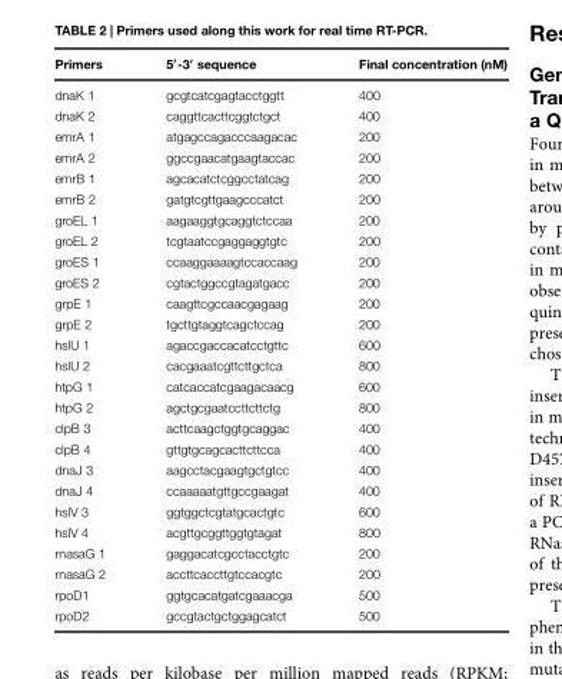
<table><thead><tr><td>Primers</td><td>5′-3′ sequence</td><td>Final concentration (nM)</td></tr></thead><tbody><tr><td>dnaK 1</td><td>gcgtcatcgagtacctggtt</td><td>400</td></tr><tr><td>dnaK 2</td><td>caggttcacttcggtctgct</td><td>400</td></tr><tr><td>emrA 1</td><td>atgagccagacccaagacac</td><td>200</td></tr><tr><td>emrA 2</td><td>ggccgaacatgaagtaccac</td><td>200</td></tr><tr><td>emrB 1</td><td>agcacatctcggcctatcag</td><td>200</td></tr><tr><td>emrB 2</td><td>gatgtcgttgaagcccatct</td><td>200</td></tr><tr><td>groEL 1</td><td>aagaaggtgcaggtctccaa</td><td>200</td></tr><tr><td>groEL 2</td><td>tcgtaatccgaggaggtgtc</td><td>200</td></tr><tr><td>groES 1</td><td>ccaaggaaaagtccaccaag</td><td>200</td></tr><tr><td>groES 2</td><td>cgtactggccgtagatgacc</td><td>200</td></tr><tr><td>grpE 1</td><td>caagttcgccaacgagaag</td><td>200</td></tr><tr><td>grpE 2</td><td>tgcttgtaggtcagctccag</td><td>200</td></tr><tr><td>hslU 1</td><td>agaccgaccacatcctgttc</td><td>600</td></tr><tr><td>hslU 2</td><td>cacgaaatcgttcttgctca</td><td>800</td></tr><tr><td>htpG 1</td><td>catcaccatcgaagacaacg</td><td>600</td></tr><tr><td>htpG 2</td><td>agctgcgaatccttcttctg</td><td>800</td></tr><tr><td>clpB 3</td><td>acttcaagctggtgcaggac</td><td>400</td></tr><tr><td>clpB 4</td><td>gttgtgcagcacttcttcca</td><td>400</td></tr><tr><td>dnaJ 3</td><td>aagcctacgaagtgctgtcc</td><td>400</td></tr><tr><td>dnaJ 4</td><td>ccaaaaatgttgccgaagat</td><td>400</td></tr><tr><td>hslV 3</td><td>ggtggctcgtatgcactgtc</td><td>600</td></tr><tr><td>hslV 4</td><td>acgttgcggttggtgtagat</td><td>800</td></tr><tr><td>rnasaG 1</td><td>gaggacatcgcctacctgtc</td><td>200</td></tr><tr><td>rnasaG 2</td><td>accttcaccttgtccacgtc</td><td>200</td></tr><tr><td>rpoD1</td><td>ggtgcacatgatcgaaacga</td><td>500</td></tr><tr><td>rpoD2</td><td>gccgtactgctggagcatct</td><td>500</td></tr></tbody></table>